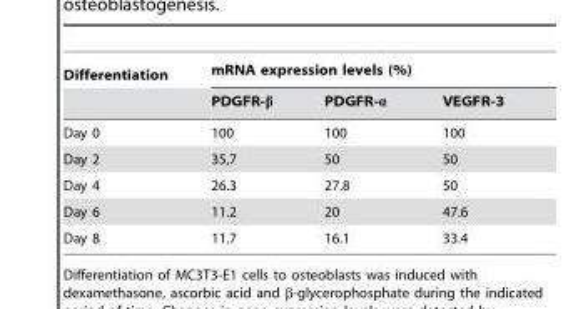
<table><thead><tr><td rowspan="2">Differentiation</td><td colspan="3">mRNA expression levels (%)</td></tr><tr><td>PDGFR-β</td><td>PDGFR-α</td><td>VEGFR-3</td></tr></thead><tbody><tr><td>Day 0</td><td>100</td><td>100</td><td>100</td></tr><tr><td>Day 2</td><td>35,7</td><td>50</td><td>50</td></tr><tr><td>Day 4</td><td>26.3</td><td>27.8</td><td>50</td></tr><tr><td>Day 6</td><td>11.2</td><td>20</td><td>47.6</td></tr><tr><td>Day 8</td><td>11.7</td><td>16.1</td><td>33.4</td></tr></tbody></table>